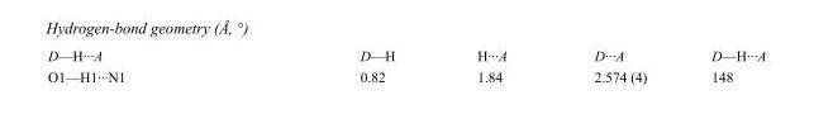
<table><tbody><tr><td>D—H···A</td><td>D—H</td><td>H···A</td><td>D···A</td><td>D—H···A</td></tr><tr><td>O1—H1···N1</td><td>0.82</td><td>1.84</td><td>2.574 (4)</td><td>148</td></tr></tbody></table>